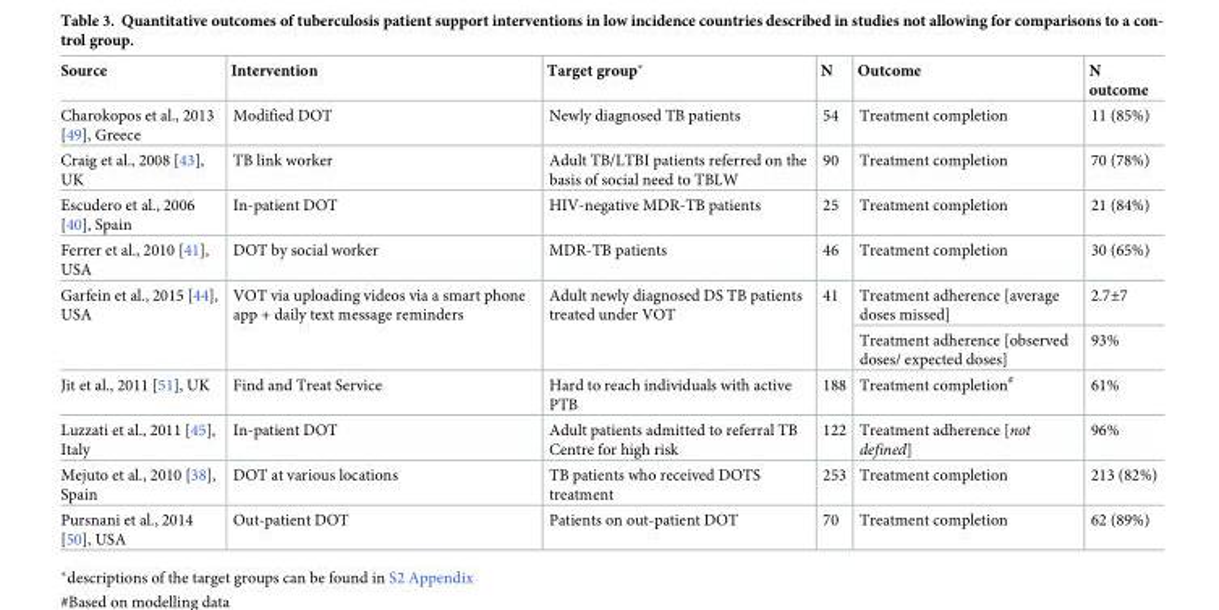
<table><thead><tr><td>Source</td><td>Intervention</td><td>Target group*</td><td>N</td><td>Outcome</td><td>N outcome</td></tr></thead><tbody><tr><td>Charokopos et al., 2013 [49], Greece</td><td>Modified DOT</td><td>Newly diagnosed TB patients</td><td>54</td><td>Treatment completion</td><td>11 (85%)</td></tr><tr><td>Craig et al., 2008 [43], UK</td><td>TB link worker</td><td>Adult TB/LTBI patients referred on the basis of social need to TBLW</td><td>90</td><td>Treatment completion</td><td>70 (78%)</td></tr><tr><td>Escudero et al., 2006 [40], Spain</td><td>In-patient DOT</td><td>HIV-negative MDR-TB patients</td><td>25</td><td>Treatment completion</td><td>21 (84%)</td></tr><tr><td>Ferrer et al., 2010 [41], USA</td><td>DOT by social worker</td><td>MDR-TB patients</td><td>46</td><td>Treatment completion</td><td>30 (65%)</td></tr><tr><td rowspan="2">Garfein et al., 2015 [44], USA</td><td rowspan="2">VOT via uploading videos via a smart phone app + daily text message reminders</td><td rowspan="2">Adult newly diagnosed DS TB patients treated under VOT</td><td rowspan="2">41</td><td>Treatment adherence [average doses missed]</td><td>2.7±7</td></tr><tr><td>Treatment adherence [observed doses/ expected doses]</td><td>93%</td></tr><tr><td>Jit et al., 2011 [51], UK</td><td>Find and Treat Service</td><td>Hard to reach individuals with active PTB</td><td>188</td><td>Treatment completion<sup>#</sup></td><td>61%</td></tr><tr><td>Luzzati et al., 2011 [45], Italy</td><td>In-patient DOT</td><td>Adult patients admitted to referral TB Centre for high risk</td><td>122</td><td>Treatment adherence [not defined]</td><td>96%</td></tr><tr><td>Mejuto et al., 2010 [38], Spain</td><td>DOT at various locations</td><td>TB patients who received DOTS treatment</td><td>253</td><td>Treatment completion</td><td>213 (82%)</td></tr><tr><td>Pursnani et al., 2014 [50], USA</td><td>Out-patient DOT</td><td>Patients on out-patient DOT</td><td>70</td><td>Treatment completion</td><td>62 (89%)</td></tr></tbody></table>